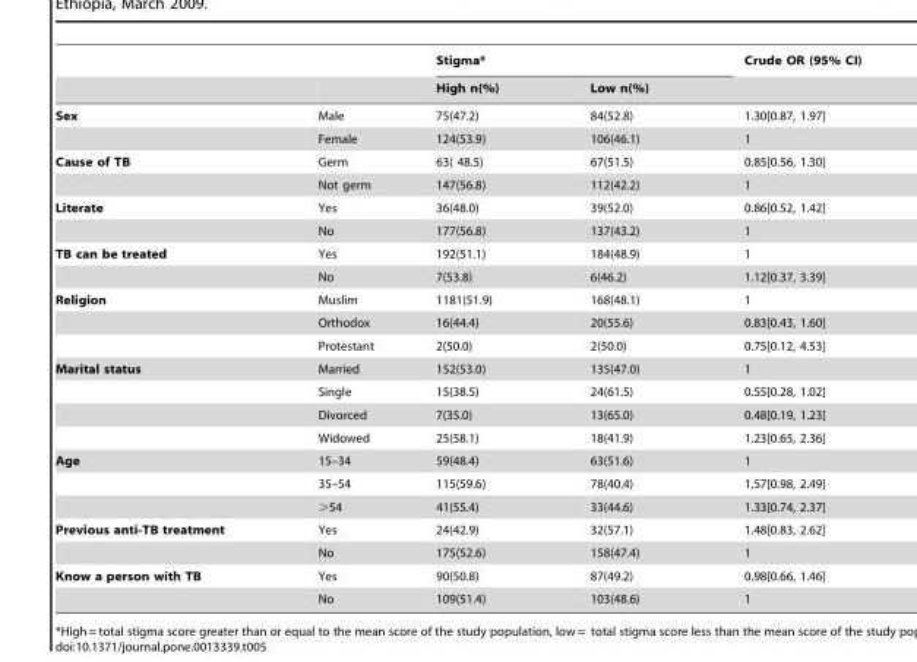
<table><thead><tr><td rowspan="2"></td><td rowspan="2"></td><td colspan="2">Stigma*</td><td rowspan="2">Crude OR (95% CI)</td></tr><tr><td>High n(%)</td><td>Low n(%)</td></tr></thead><tbody><tr><td rowspan="2">Sex</td><td>Male</td><td>75(47.2)</td><td>84(52.8)</td><td>1.30[0.87, 1.97]</td></tr><tr><td>Female</td><td>124(53.9)</td><td>106(46.1)</td><td>1</td></tr><tr><td rowspan="2">Cause of TB</td><td>Germ</td><td>63( 48.5)</td><td>67(51.5)</td><td>0.85[0.56, 1.30]</td></tr><tr><td>Not germ</td><td>147(56.8)</td><td>112(42.2)</td><td>1</td></tr><tr><td rowspan="2">Literate</td><td>Yes</td><td>36(48.0)</td><td>39(52.0)</td><td>0.86[0.52, 1.42]</td></tr><tr><td>No</td><td>177(56.8)</td><td>137(43.2)</td><td>1</td></tr><tr><td rowspan="2">TB can be treated</td><td>Yes</td><td>192(51.1)</td><td>184(48.9)</td><td>1</td></tr><tr><td>No</td><td>7(53.8)</td><td>6(46.2)</td><td>1.12[0.37, 3.39]</td></tr><tr><td rowspan="3">Religion</td><td>Muslim</td><td>1181(51.9)</td><td>168(48.1)</td><td>1</td></tr><tr><td>Orthodox</td><td>16(44.4)</td><td>20(55.6)</td><td>0.83[0.43, 1.60]</td></tr><tr><td>Protestant</td><td>2(50.0)</td><td>2(50.0)</td><td>0.75[0.12, 4.53]</td></tr><tr><td rowspan="4">Marital status</td><td>Married</td><td>152(53.0)</td><td>135(47.0)</td><td>1</td></tr><tr><td>Single</td><td>15(38.5)</td><td>24(61.5)</td><td>0.55[0.28, 1.02]</td></tr><tr><td>Divorced</td><td>7(35.0)</td><td>13(65.0)</td><td>0.48[0.19, 1.23]</td></tr><tr><td>Widowed</td><td>25(58.1)</td><td>18(41.9)</td><td>1.23[0.65, 2.36]</td></tr><tr><td rowspan="3">Age</td><td>15–34</td><td>59(48.4)</td><td>63(51.6)</td><td>1</td></tr><tr><td>35–54</td><td>115(59.6)</td><td>78(40.4)</td><td>1.57[0.98, 2.49]</td></tr><tr><td>&gt;54</td><td>41(55.4)</td><td>33(44.6)</td><td>1.33[0.74, 2.37]</td></tr><tr><td rowspan="2">Previous anti-TB treatment</td><td>Yes</td><td>24(42.9)</td><td>32(57.1)</td><td>1.48[0.83, 2.62]</td></tr><tr><td>No</td><td>175(52.6)</td><td>158(47.4)</td><td>1</td></tr><tr><td rowspan="2">Know a person with TB</td><td>Yes</td><td>90(50.8)</td><td>87(49.2)</td><td>0.98[0.66, 1.46]</td></tr><tr><td>No</td><td>109(51.4)</td><td>103(48.6)</td><td>1</td></tr></tbody></table>